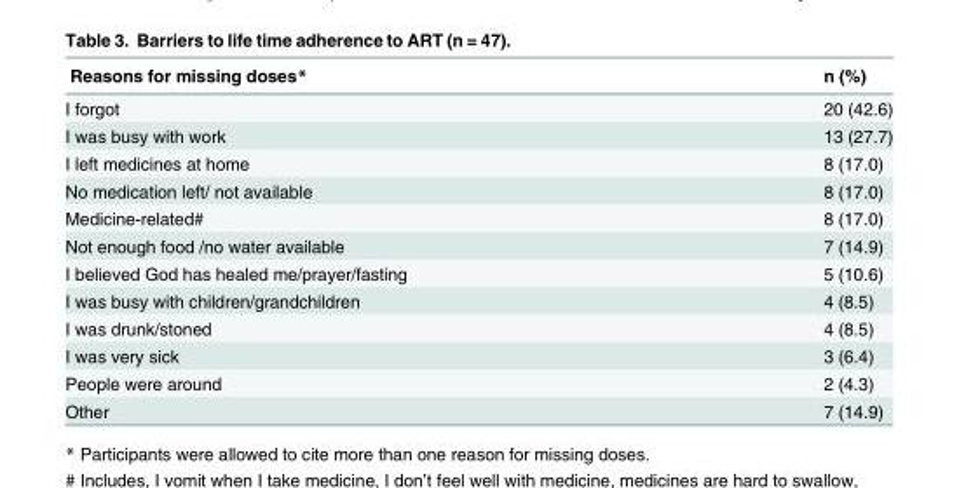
<table><thead><tr><td>Reasons for missing doses*</td><td>n (%)</td></tr></thead><tbody><tr><td>I forgot</td><td>20 (42.6)</td></tr><tr><td>I was busy with work</td><td>13 (27.7)</td></tr><tr><td>I left medicines at home</td><td>8 (17.0)</td></tr><tr><td>No medication left/ not available</td><td>8 (17.0)</td></tr><tr><td>Medicine-related#</td><td>8 (17.0)</td></tr><tr><td>Not enough food /no water available</td><td>7 (14.9)</td></tr><tr><td>I believed God has healed me/prayer/fasting</td><td>5 (10.6)</td></tr><tr><td>I was busy with children/grandchildren</td><td>4 (8.5)</td></tr><tr><td>I was drunk/stoned</td><td>4 (8.5)</td></tr><tr><td>I was very sick</td><td>3 (6.4)</td></tr><tr><td>People were around</td><td>2 (4.3)</td></tr><tr><td>Other</td><td>7 (14.9)</td></tr></tbody></table>